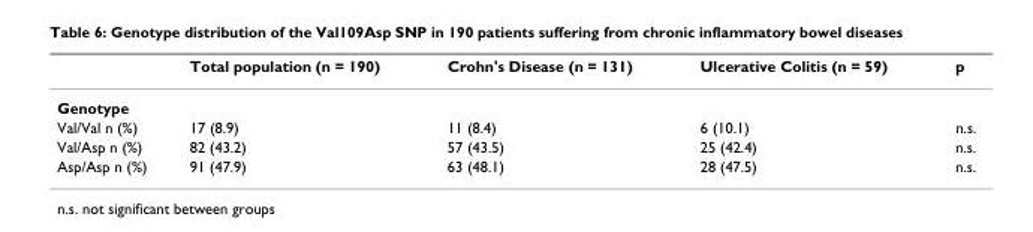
<table><thead><tr><td></td><td>Total population (n = 190)</td><td>Crohn&#x27;s Disease (n = 131)</td><td>Ulcerative Colitis (n = 59)</td><td>p</td></tr></thead><tbody><tr><td colspan="5">Genotype</td></tr><tr><td>Val/Val n (%)</td><td>17 (8.9)</td><td>11 (8.4)</td><td>6 (10.1)</td><td>n.s.</td></tr><tr><td>Val/Asp n (%)</td><td>82 (43.2)</td><td>57 (43.5)</td><td>25 (42.4)</td><td>n.s.</td></tr><tr><td>Asp/Asp n (%)</td><td>91 (47.9)</td><td>63 (48.1)</td><td>28 (47.5)</td><td>n.s.</td></tr></tbody></table>